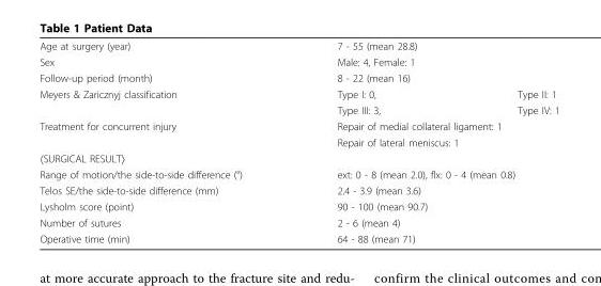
<table><tbody><tr><td>Age at surgery (year)</td><td colspan="2">7 - 55 (mean 28.8)</td></tr><tr><td>Sex</td><td colspan="2">Male: 4, Female: 1</td></tr><tr><td>Follow-up period (month)</td><td colspan="2">8 - 22 (mean 16)</td></tr><tr><td rowspan="2">Meyers &amp; Zaricznyj classification</td><td>Type I: 0,</td><td>Type II: 1</td></tr><tr><td>Type III: 3,</td><td>Type IV: 1</td></tr><tr><td rowspan="2">Treatment for concurrent injury</td><td colspan="2">Repair of medial collateral ligament: 1</td></tr><tr><td colspan="2">Repair of lateral meniscus: 1</td></tr><tr><td colspan="3">〈SURGICAL RESULT〉</td></tr><tr><td>Range of motion/the side-to-side difference (°)</td><td colspan="2">ext: 0 - 8 (mean 2.0), flx: 0 - 4 (mean 0.8)</td></tr><tr><td>Telos SE/the side-to-side difference (mm)</td><td colspan="2">2.4 - 3.9 (mean 3.6)</td></tr><tr><td>Lysholm score (point)</td><td colspan="2">90 - 100 (mean 90.7)</td></tr><tr><td>Number of sutures</td><td colspan="2">2 - 6 (mean 4)</td></tr><tr><td>Operative time (min)</td><td colspan="2">64 - 88 (mean 71)</td></tr></tbody></table>